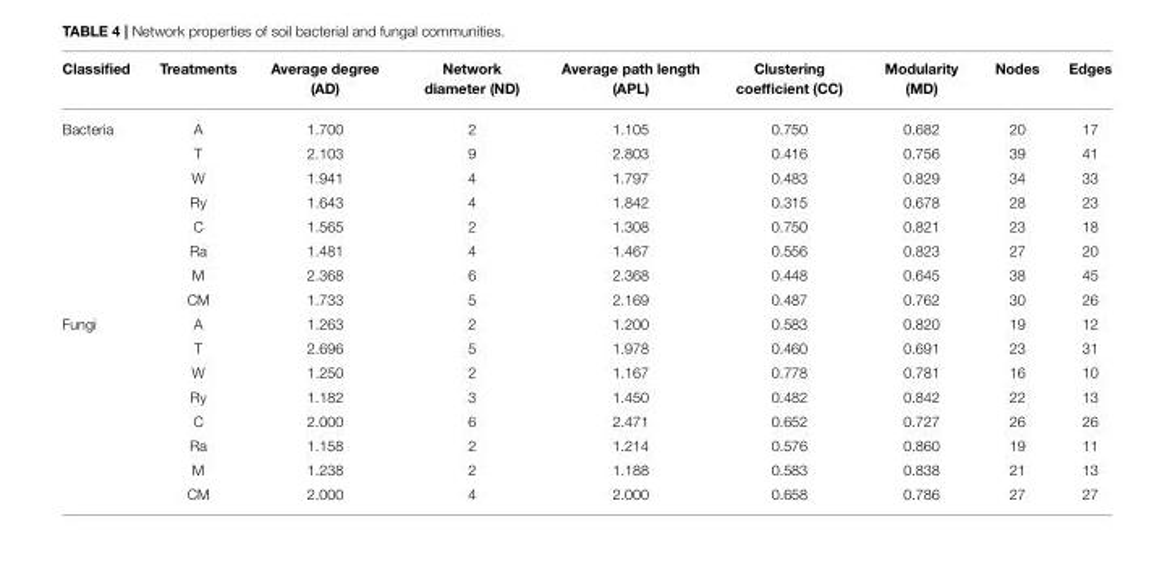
<table><thead><tr><td>Classified</td><td>Treatments</td><td>Average degree (AD)</td><td>Network diameter (ND)</td><td>Average path length (APL)</td><td>Clustering coefficient (CC)</td><td>Modularity (MD)</td><td>Nodes</td><td>Edges</td></tr></thead><tbody><tr><td rowspan="8">Bacteria</td><td>A</td><td>1.700</td><td>2</td><td>1.105</td><td>0.750</td><td>0.682</td><td>20</td><td>17</td></tr><tr><td>T</td><td>2.103</td><td>9</td><td>2.803</td><td>0.416</td><td>0.756</td><td>39</td><td>41</td></tr><tr><td>W</td><td>1.941</td><td>4</td><td>1.797</td><td>0.483</td><td>0.829</td><td>34</td><td>33</td></tr><tr><td>Ry</td><td>1.643</td><td>4</td><td>1.842</td><td>0.315</td><td>0.678</td><td>28</td><td>23</td></tr><tr><td>C</td><td>1.565</td><td>2</td><td>1.308</td><td>0.750</td><td>0.821</td><td>23</td><td>18</td></tr><tr><td>Ra</td><td>1.481</td><td>4</td><td>1.467</td><td>0.556</td><td>0.823</td><td>27</td><td>20</td></tr><tr><td>M</td><td>2.368</td><td>6</td><td>2.368</td><td>0.448</td><td>0.645</td><td>38</td><td>45</td></tr><tr><td>CM</td><td>1.733</td><td>5</td><td>2.169</td><td>0.487</td><td>0.762</td><td>30</td><td>26</td></tr><tr><td rowspan="8">Fungi</td><td>A</td><td>1.263</td><td>2</td><td>1.200</td><td>0.583</td><td>0.820</td><td>19</td><td>12</td></tr><tr><td>T</td><td>2.696</td><td>5</td><td>1.978</td><td>0.460</td><td>0.691</td><td>23</td><td>31</td></tr><tr><td>W</td><td>1.250</td><td>2</td><td>1.167</td><td>0.778</td><td>0.781</td><td>16</td><td>10</td></tr><tr><td>Ry</td><td>1.182</td><td>3</td><td>1.450</td><td>0.482</td><td>0.842</td><td>22</td><td>13</td></tr><tr><td>C</td><td>2.000</td><td>6</td><td>2.471</td><td>0.652</td><td>0.727</td><td>26</td><td>26</td></tr><tr><td>Ra</td><td>1.158</td><td>2</td><td>1.214</td><td>0.576</td><td>0.860</td><td>19</td><td>11</td></tr><tr><td>M</td><td>1.238</td><td>2</td><td>1.188</td><td>0.583</td><td>0.838</td><td>21</td><td>13</td></tr><tr><td>CM</td><td>2.000</td><td>4</td><td>2.000</td><td>0.658</td><td>0.786</td><td>27</td><td>27</td></tr></tbody></table>